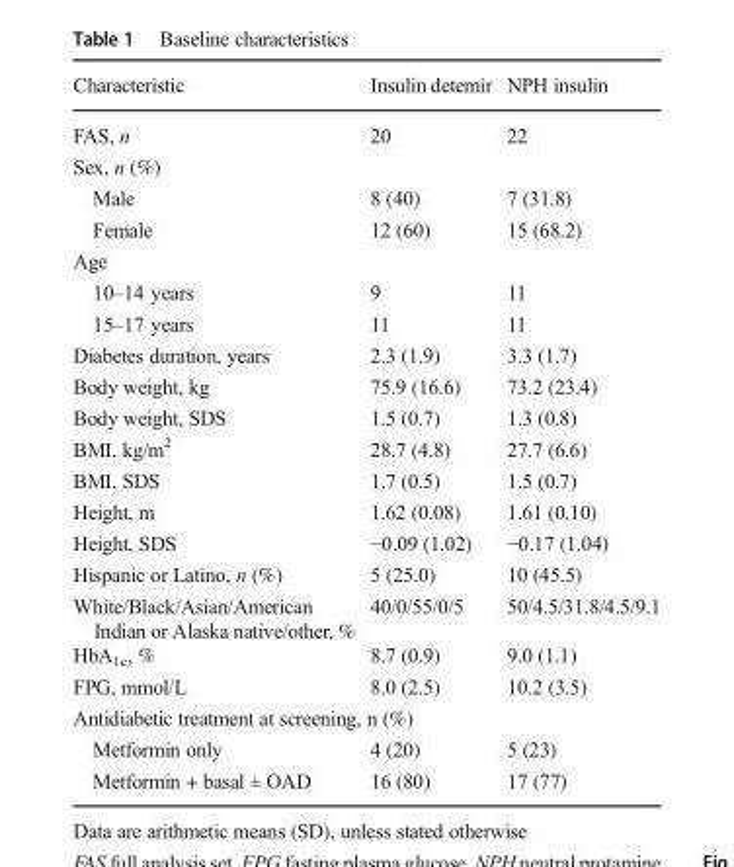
<table><thead><tr><td>Characteristic</td><td>Insulin detemir</td><td>NPH insulin</td></tr></thead><tbody><tr><td>FAS, n</td><td>20</td><td>22</td></tr><tr><td colspan="3">Sex, n (%)</td></tr><tr><td>Male</td><td>8 (40)</td><td>7 (31.8)</td></tr><tr><td>Female</td><td>12 (60)</td><td>15 (68.2)</td></tr><tr><td colspan="3">Age</td></tr><tr><td>10–14 years</td><td>9</td><td>11</td></tr><tr><td>15–17 years</td><td>11</td><td>11</td></tr><tr><td>Diabetes duration, years</td><td>2.3 (1.9)</td><td>3.3 (1.7)</td></tr><tr><td>Body weight, kg</td><td>75.9 (16.6)</td><td>73.2 (23.4)</td></tr><tr><td>Body weight, SDS</td><td>1.5 (0.7)</td><td>1.3 (0.8)</td></tr><tr><td>BMI, kg/m<sup>2</sup></td><td>28.7 (4.8)</td><td>27.7 (6.6)</td></tr><tr><td>BMI, SDS</td><td>1.7 (0.5)</td><td>1.5 (0.7)</td></tr><tr><td>Height, m</td><td>1.62 (0.08)</td><td>1.61 (0.10)</td></tr><tr><td>Height, SDS</td><td>−0.09 (1.02)</td><td>−0.17 (1.04)</td></tr><tr><td>Hispanic or Latino, n (%)</td><td>5 (25.0)</td><td>10 (45.5)</td></tr><tr><td>White/Black/Asian/American Indian or Alaska native/other, %</td><td>40/0/55/0/5</td><td>50/4.5/31.8/4.5/9.1</td></tr><tr><td>HbA<sub>1c</sub>, %</td><td>8.7 (0.9)</td><td>9.0 (1.1)</td></tr><tr><td>FPG, mmol/L</td><td>8.0 (2.5)</td><td>10.2 (3.5)</td></tr><tr><td colspan="3">Antidiabetic treatment at screening, n (%)</td></tr><tr><td>Metformin only</td><td>4 (20)</td><td>5 (23)</td></tr><tr><td>Metformin + basal ± OAD</td><td>16 (80)</td><td>17 (77)</td></tr></tbody></table>